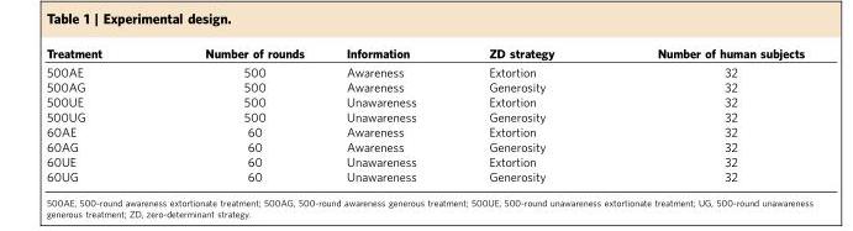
<table><thead><tr><td>Treatment</td><td>Number of rounds</td><td>Information</td><td>ZD strategy</td><td>Number of human subjects</td></tr></thead><tbody><tr><td>500AE</td><td>500</td><td>Awareness</td><td>Extortion</td><td>32</td></tr><tr><td>500AG</td><td>500</td><td>Awareness</td><td>Generosity</td><td>32</td></tr><tr><td>500UE</td><td>500</td><td>Unawareness</td><td>Extortion</td><td>32</td></tr><tr><td>500UG</td><td>500</td><td>Unawareness</td><td>Generosity</td><td>32</td></tr><tr><td>60AE</td><td>60</td><td>Awareness</td><td>Extortion</td><td>32</td></tr><tr><td>60AG</td><td>60</td><td>Awareness</td><td>Generosity</td><td>32</td></tr><tr><td>60UE</td><td>60</td><td>Unawareness</td><td>Extortion</td><td>32</td></tr><tr><td>60UG</td><td>60</td><td>Unawareness</td><td>Generosity</td><td>32</td></tr></tbody></table>